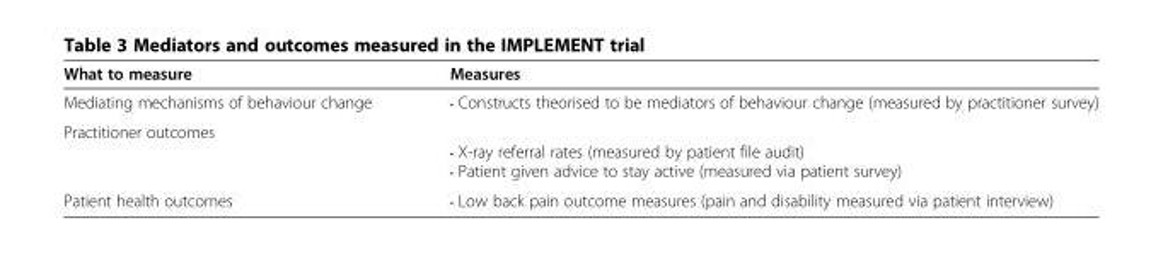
<table><thead><tr><td>What to measure</td><td>Measures</td></tr></thead><tbody><tr><td>Mediating mechanisms of behaviour change</td><td>• Constructs theorised to be mediators of behaviour change (measured by practitioner survey)</td></tr><tr><td>Practitioner outcomes</td><td>• X-ray referral rates (measured by patient file audit) • Patient given advice to stay active (measured via patient survey)</td></tr><tr><td>Patient health outcomes</td><td>• Low back pain outcome measures (pain and disability measured via patient interview)</td></tr></tbody></table>